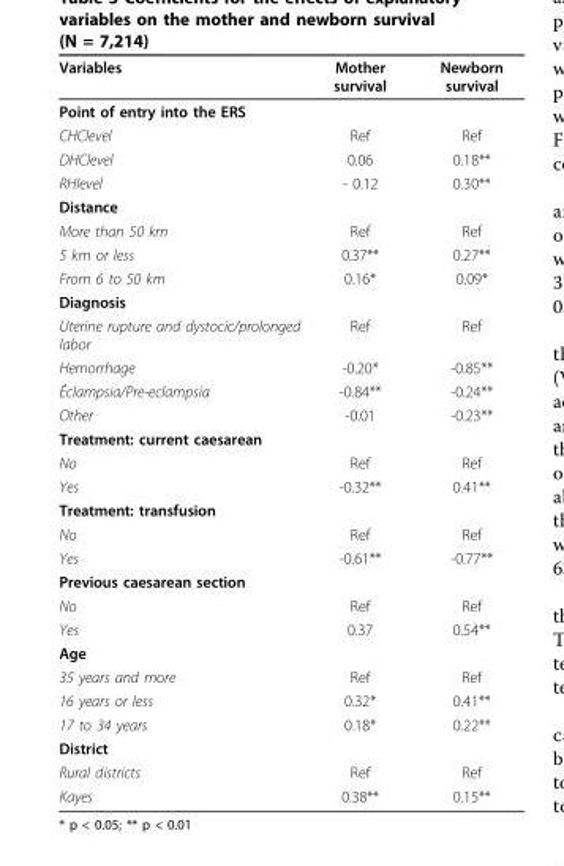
<table><thead><tr><td>Variables</td><td>Mother survival</td><td>Newborn survival</td></tr></thead><tbody><tr><td colspan="3">Point of entry into the ERS</td></tr><tr><td>CHClevel</td><td>Ref</td><td>Ref</td></tr><tr><td>DHClevel</td><td>0.06</td><td>0.18**</td></tr><tr><td>RHlevel</td><td>- 0.12</td><td>0.30**</td></tr><tr><td colspan="3">Distance</td></tr><tr><td>More than 50 km</td><td>Ref</td><td>Ref</td></tr><tr><td>5 km or less</td><td>0.37**</td><td>0.27**</td></tr><tr><td>From 6 to 50 km</td><td>0.16*</td><td>0.09*</td></tr><tr><td colspan="3">Diagnosis</td></tr><tr><td>Uterine rupture and dystocic/prolonged labor</td><td>Ref</td><td>Ref</td></tr><tr><td>Hemorrhage</td><td>-0.20*</td><td>-0.85**</td></tr><tr><td>Éclampsia/Pre-eclampsia</td><td>-0.84**</td><td>-0.24**</td></tr><tr><td>Other</td><td>-0.01</td><td>-0.23**</td></tr><tr><td colspan="3">Treatment: current caesarean</td></tr><tr><td>No</td><td>Ref</td><td>Ref</td></tr><tr><td>Yes</td><td>-0.32**</td><td>0.41**</td></tr><tr><td colspan="3">Treatment: transfusion</td></tr><tr><td>No</td><td>Ref</td><td>Ref</td></tr><tr><td>Yes</td><td>-0.61**</td><td>-0.77**</td></tr><tr><td colspan="3">Previous caesarean section</td></tr><tr><td>No</td><td>Ref</td><td>Ref</td></tr><tr><td>Yes</td><td>0.37</td><td>0.54**</td></tr><tr><td colspan="3">Age</td></tr><tr><td>35 years and more</td><td>Ref</td><td>Ref</td></tr><tr><td>16 years or less</td><td>0.32*</td><td>0.41**</td></tr><tr><td>17 to 34 years</td><td>0.18*</td><td>0.22**</td></tr><tr><td colspan="3">District</td></tr><tr><td>Rural districts</td><td>Ref</td><td>Ref</td></tr><tr><td>Kayes</td><td>0.38**</td><td>0.15**</td></tr></tbody></table>